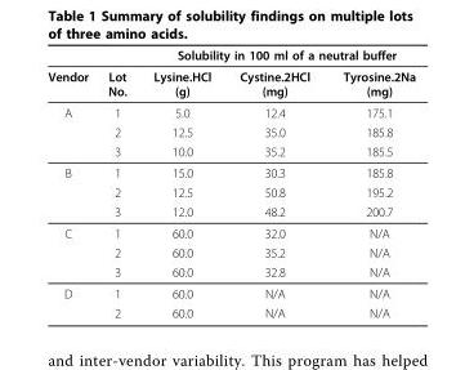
<table><thead><tr><td rowspan="2">Vendor</td><td rowspan="2">Lot No.</td><td colspan="3">Solubility in 100 ml of a neutral buffer</td></tr><tr><td>Lysine.HCl (g)</td><td>Cystine.2HCl (mg)</td><td>Tyrosine.2Na (mg)</td></tr></thead><tbody><tr><td rowspan="3">A</td><td>1</td><td>5.0</td><td>12.4</td><td>175.1</td></tr><tr><td>2</td><td>12.5</td><td>35.0</td><td>185.8</td></tr><tr><td>3</td><td>10.0</td><td>35.2</td><td>185.5</td></tr><tr><td rowspan="3">B</td><td>1</td><td>15.0</td><td>30.3</td><td>185.8</td></tr><tr><td>2</td><td>12.5</td><td>50.8</td><td>195.2</td></tr><tr><td>3</td><td>12.0</td><td>48.2</td><td>200.7</td></tr><tr><td rowspan="3">C</td><td>1</td><td>60.0</td><td>32.0</td><td>N/A</td></tr><tr><td>2</td><td>60.0</td><td>35.2</td><td>N/A</td></tr><tr><td>3</td><td>60.0</td><td>32.8</td><td>N/A</td></tr><tr><td rowspan="2">D</td><td>1</td><td>60.0</td><td>N/A</td><td>N/A</td></tr><tr><td>2</td><td>60.0</td><td>N/A</td><td>N/A</td></tr></tbody></table>